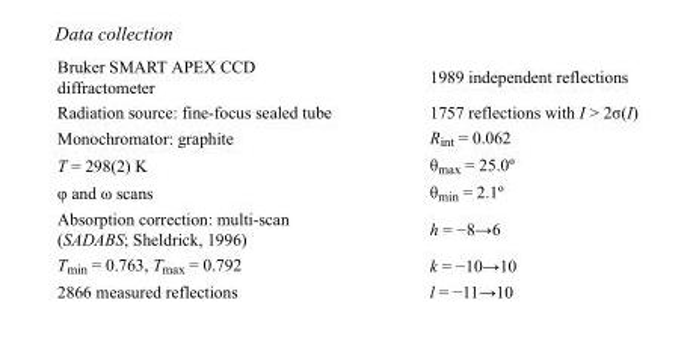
<table><tbody><tr><td>Bruker SMART APEX CCD diffractometer</td><td>1989 independent reflections</td></tr><tr><td>Radiation source: fine-focus sealed tube</td><td>1757 reflections with I &gt; 2σ(I)</td></tr><tr><td>Monochromator: graphite</td><td>R<sub>int</sub> = 0.062</td></tr><tr><td>T = 298(2) K</td><td>θ<sub>max</sub> = 25.0º</td></tr><tr><td>φ and ω scans</td><td>θ<sub>min</sub> = 2.1º</td></tr><tr><td>Absorption correction: multi-scan (SADABS; Sheldrick, 1996)</td><td>h = −8→6</td></tr><tr><td>T<sub>min</sub> = 0.763, T<sub>max</sub> = 0.792</td><td>k = −10→10</td></tr><tr><td>2866 measured reflections</td><td>l = −11→10</td></tr></tbody></table>